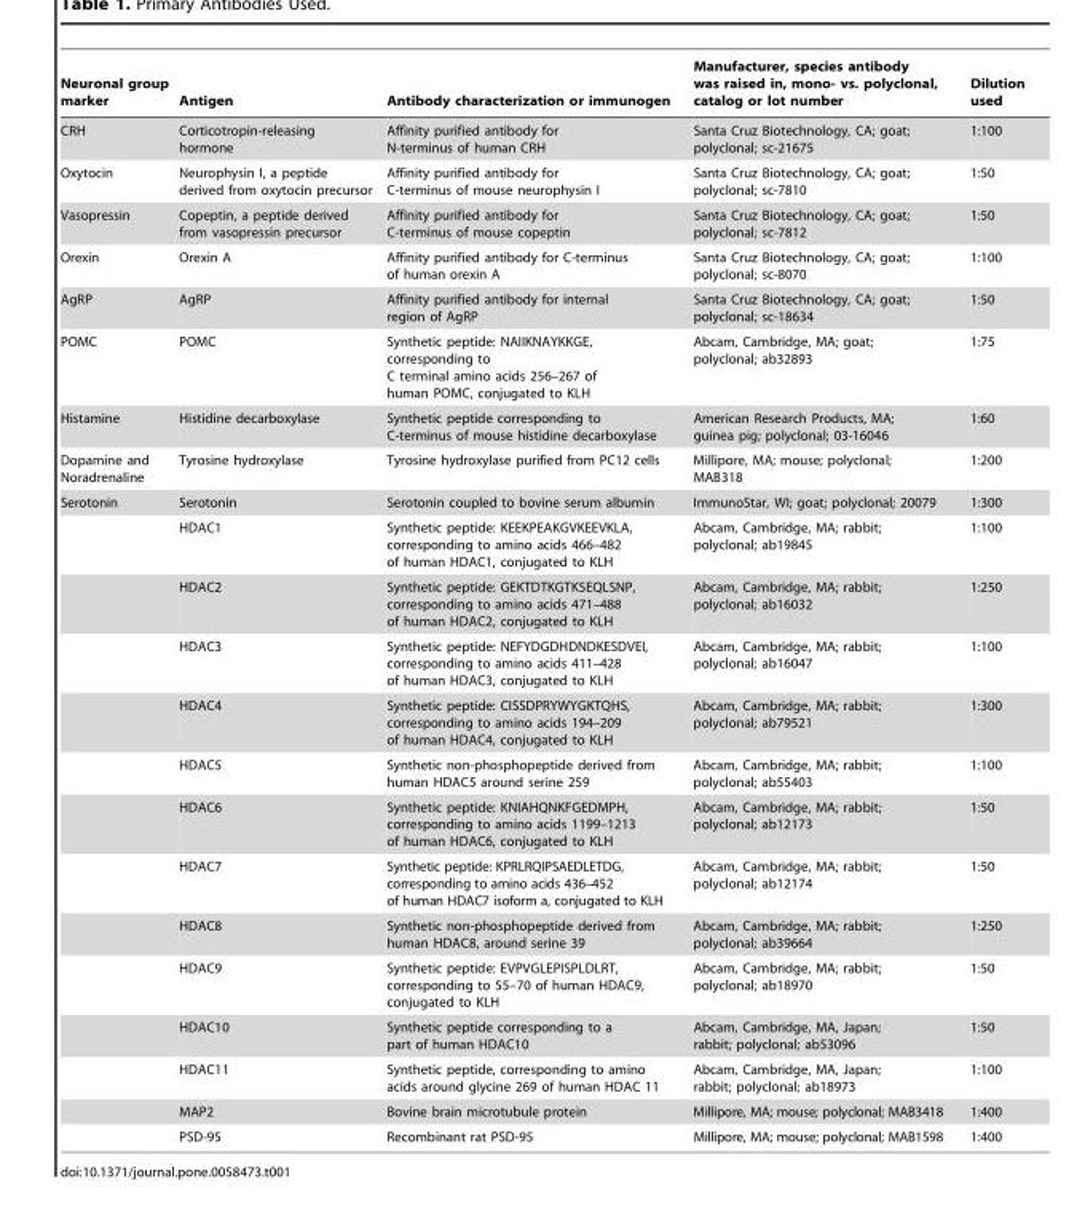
<table><thead><tr><td>Neuronal group marker</td><td>Antigen</td><td>Antibody characterization or immunogen</td><td>Manufacturer, species antibody was raised in, mono- vs. polyclonal, catalog or lot number</td><td>Dilution used</td></tr></thead><tbody><tr><td>CRH</td><td>Corticotropin-releasing hormone</td><td>Affinity purified antibody for N-terminus of human CRH</td><td>Santa Cruz Biotechnology, CA; goat; polyclonal; sc-21675</td><td>1:100</td></tr><tr><td>Oxytocin</td><td>Neurophysin I, a peptide derived from oxytocin precursor</td><td>Affinity purified antibody for C-terminus of mouse neurophysin I</td><td>Santa Cruz Biotechnology, CA; goat; polyclonal; sc-7810</td><td>1:50</td></tr><tr><td>Vasopressin</td><td>Copeptin, a peptide derived from vasopressin precursor</td><td>Affinity purified antibody for C-terminus of mouse copeptin</td><td>Santa Cruz Biotechnology, CA; goat; polyclonal; sc-7812</td><td>1:50</td></tr><tr><td>Orexin</td><td>Orexin A</td><td>Affinity purified antibody for C-terminus of human orexin A</td><td>Santa Cruz Biotechnology, CA; goat; polyclonal; sc-8070</td><td>1:100</td></tr><tr><td>AgRP</td><td>AgRP</td><td>Affinity purified antibody for internal region of AgRP</td><td>Santa Cruz Biotechnology, CA; goat; polyclonal; sc-18634</td><td>1:50</td></tr><tr><td>POMC</td><td>POMC</td><td>Synthetic peptide: NAIIKNAYKKGE, corresponding to C terminal amino acids 256–267 of human POMC, conjugated to KLH</td><td>Abcam, Cambridge, MA; goat; polyclonal; ab32893</td><td>1:75</td></tr><tr><td>Histamine</td><td>Histidine decarboxylase</td><td>Synthetic peptide corresponding to C-terminus of mouse histidine decarboxylase</td><td>American Research Products, MA; guinea pig; polyclonal; 03-16046</td><td>1:60</td></tr><tr><td>Dopamine and Noradrenaline</td><td>Tyrosine hydroxylase</td><td>Tyrosine hydroxylase purified from PC12 cells</td><td>Millipore, MA; mouse; polyclonal; MAB318</td><td>1:200</td></tr><tr><td rowspan="14">Serotonin</td><td>Serotonin</td><td>Serotonin coupled to bovine serum albumin</td><td>ImmunoStar, WI; goat; polyclonal; 20079</td><td>1:300</td></tr><tr><td>HDAC1</td><td>Synthetic peptide: KEEKPEAKGVKEEVKLA, corresponding to amino acids 466–482 of human HDAC1, conjugated to KLH</td><td>Abcam, Cambridge, MA; rabbit; polyclonal; ab19845</td><td>1:100</td></tr><tr><td>HDAC2</td><td>Synthetic peptide: GEKTDTKGTKSEQLSNP, corresponding to amino acids 471–488 of human HDAC2, conjugated to KLH</td><td>Abcam, Cambridge, MA; rabbit; polyclonal; ab16032</td><td>1:250</td></tr><tr><td>HDAC3</td><td>Synthetic peptide: NEFYDGDHDNDKESDVEI, corresponding to amino acids 411–428 of human HDAC3, conjugated to KLH</td><td>Abcam, Cambridge, MA; rabbit; polyclonal; ab16047</td><td>1:100</td></tr><tr><td>HDAC4</td><td>Synthetic peptide: CISSDPRYWYGKTQHS, corresponding to amino acids 194–209 of human HDAC4, conjugated to KLH</td><td>Abcam, Cambridge, MA; rabbit; polyclonal; ab79521</td><td>1:300</td></tr><tr><td>HDAC5</td><td>Synthetic non-phosphopeptide derived from human HDAC5 around serine 259</td><td>Abcam, Cambridge, MA; rabbit; polyclonal; ab55403</td><td>1:100</td></tr><tr><td>HDAC6</td><td>Synthetic peptide: KNIAHQNKFGEDMPH, corresponding to amino acids 1199–1213 of human HDAC6, conjugated to KLH</td><td>Abcam, Cambridge, MA; rabbit; polyclonal; ab12173</td><td>1:50</td></tr><tr><td>HDAC7</td><td>Synthetic peptide: KPRLRQIPSAEDLETDG, corresponding to amino acids 436–452 of human HDAC7 isoform a, conjugated to KLH</td><td>Abcam, Cambridge, MA; rabbit; polyclonal; ab12174</td><td>1:50</td></tr><tr><td>HDAC8</td><td>Synthetic non-phosphopeptide derived from human HDAC8, around serine 39</td><td>Abcam, Cambridge, MA; rabbit; polyclonal; ab39664</td><td>1:250</td></tr><tr><td>HDAC9</td><td>Synthetic peptide: EVPVGLEPISPLDLRT, corresponding to 55–70 of human HDAC9, conjugated to KLH</td><td>Abcam, Cambridge, MA; rabbit; polyclonal; ab18970</td><td>1:50</td></tr><tr><td>HDAC10</td><td>Synthetic peptide corresponding to a part of human HDAC10</td><td>Abcam, Cambridge, MA, Japan; rabbit; polyclonal; ab53096</td><td>1:50</td></tr><tr><td>HDAC11</td><td>Synthetic peptide, corresponding to amino acids around glycine 269 of human HDAC 11</td><td>Abcam, Cambridge, MA, Japan; rabbit; polyclonal; ab18973</td><td>1:100</td></tr><tr><td>MAP2</td><td>Bovine brain microtubule protein</td><td>Millipore, MA; mouse; polyclonal; MAB3418</td><td>1:400</td></tr><tr><td>PSD-95</td><td>Recombinant rat PSD-95</td><td>Millipore, MA; mouse; polyclonal; MAB1598</td><td>1:400</td></tr></tbody></table>